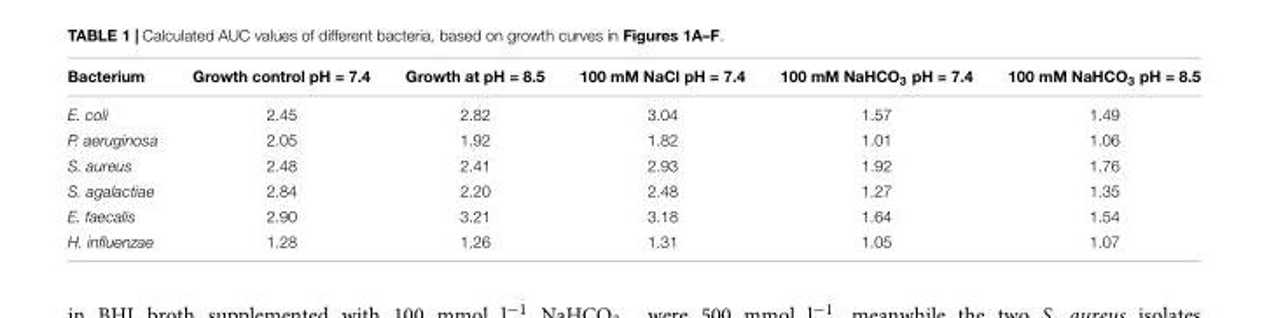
<table><thead><tr><td>Bacterium</td><td>Growth control pH = 7.4</td><td>Growth at pH = 8.5</td><td>100 mM NaCl pH = 7.4</td><td>100 mM NaHCO<sub>3</sub> pH = 7.4</td><td>100 mM NaHCO<sub>3</sub> pH = 8.5</td></tr></thead><tbody><tr><td>E. coli</td><td>2.45</td><td>2.82</td><td>3.04</td><td>1.57</td><td>1.49</td></tr><tr><td>P. aeruginosa</td><td>2.05</td><td>1.92</td><td>1.82</td><td>1.01</td><td>1.06</td></tr><tr><td>S. aureus</td><td>2.48</td><td>2.41</td><td>2.93</td><td>1.92</td><td>1.76</td></tr><tr><td>S. agalactiae</td><td>2.84</td><td>2.20</td><td>2.48</td><td>1.27</td><td>1.35</td></tr><tr><td>E. faecalis</td><td>2.90</td><td>3.21</td><td>3.18</td><td>1.64</td><td>1.54</td></tr><tr><td>H. influenzae</td><td>1.28</td><td>1.26</td><td>1.31</td><td>1.05</td><td>1.07</td></tr></tbody></table>